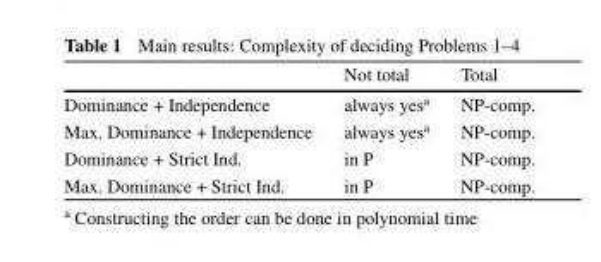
<table><thead><tr><td></td><td>Not total</td><td>Total</td></tr></thead><tbody><tr><td>Dominance + Independence</td><td>always yes<sup>a</sup></td><td>NP-comp.</td></tr><tr><td>Max. Dominance + Independence</td><td>always yes<sup>a</sup></td><td>NP-comp.</td></tr><tr><td>Dominance + Strict Ind.</td><td>in P</td><td>NP-comp.</td></tr><tr><td>Max. Dominance + Strict Ind.</td><td>in P</td><td>NP-comp.</td></tr></tbody></table>